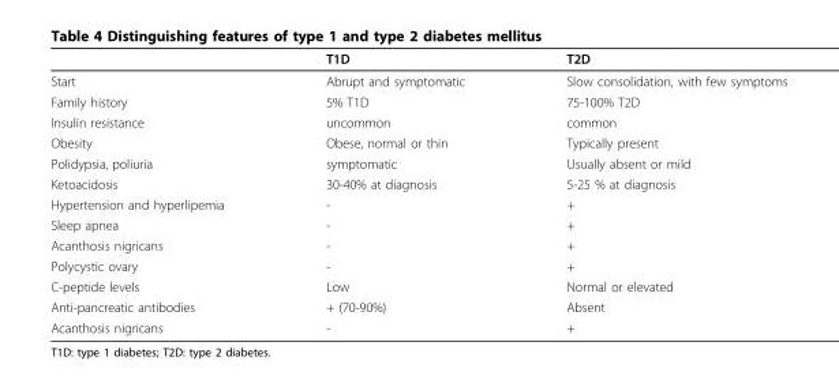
<table><thead><tr><td></td><td>T1D</td><td>T2D</td></tr></thead><tbody><tr><td>Start</td><td>Abrupt and symptomatic</td><td>Slow consolidation, with few symptoms</td></tr><tr><td>Family history</td><td>5% T1D</td><td>75-100% T2D</td></tr><tr><td>Insulin resistance</td><td>uncommon</td><td>common</td></tr><tr><td>Obesity</td><td>Obese, normal or thin</td><td>Typically present</td></tr><tr><td>Polidypsia, poliuria</td><td>symptomatic</td><td>Usually absent or mild</td></tr><tr><td>Ketoacidosis</td><td>30-40% at diagnosis</td><td>5-25 % at diagnosis</td></tr><tr><td>Hypertension and hyperlipemia</td><td>-</td><td>+</td></tr><tr><td>Sleep apnea</td><td>-</td><td>+</td></tr><tr><td>Acanthosis nigricans</td><td>-</td><td>+</td></tr><tr><td>Polycystic ovary</td><td>-</td><td>+</td></tr><tr><td>C-peptide levels</td><td>Low</td><td>Normal or elevated</td></tr><tr><td>Anti-pancreatic antibodies</td><td>+ (70-90%)</td><td>Absent</td></tr><tr><td>Acanthosis nigricans</td><td>-</td><td>+</td></tr></tbody></table>